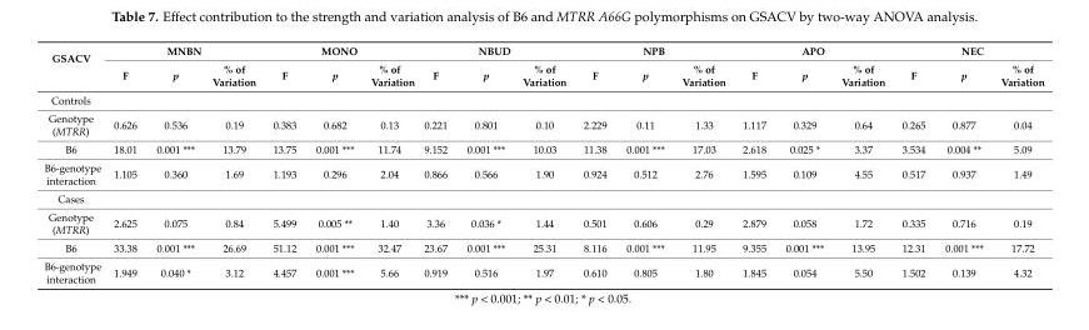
<table><thead><tr><td rowspan="2">GSACV</td><td colspan="3">MNBN</td><td colspan="3">MONO</td><td colspan="3">NBUD</td><td colspan="3">NPB</td><td colspan="3">APO</td><td colspan="3">NEC</td></tr><tr><td>F</td><td>p</td><td>% of Variation</td><td>F</td><td>p</td><td>% of Variation</td><td>F</td><td>p</td><td>% of Variation</td><td>F</td><td>p</td><td>% of Variation</td><td>F</td><td>p</td><td>% of Variation</td><td>F</td><td>p</td><td>% of Variation</td></tr></thead><tbody><tr><td colspan="19">Controls</td></tr><tr><td>Genotype (MTRR)</td><td>0.626</td><td>0.536</td><td>0.19</td><td>0.383</td><td>0.682</td><td>0.13</td><td>0.221</td><td>0.801</td><td>0.10</td><td>2.229</td><td>0.11</td><td>1.33</td><td>1.117</td><td>0.329</td><td>0.64</td><td>0.265</td><td>0.877</td><td>0.04</td></tr><tr><td>B6</td><td>18.01</td><td>0.001 ***</td><td>13.79</td><td>13.75</td><td>0.001 ***</td><td>11.74</td><td>9.152</td><td>0.001 ***</td><td>10.03</td><td>11.38</td><td>0.001 ***</td><td>17.03</td><td>2.618</td><td>0.025 *</td><td>3.37</td><td>3.534</td><td>0.004 **</td><td>5.09</td></tr><tr><td>B6-genotype interaction</td><td>1.105</td><td>0.360</td><td>1.69</td><td>1.193</td><td>0.296</td><td>2.04</td><td>0.866</td><td>0.566</td><td>1.90</td><td>0.924</td><td>0.512</td><td>2.76</td><td>1.595</td><td>0.109</td><td>4.55</td><td>0.517</td><td>0.937</td><td>1.49</td></tr><tr><td colspan="19">Cases</td></tr><tr><td>Genotype (MTRR)</td><td>2.625</td><td>0.075</td><td>0.84</td><td>5.499</td><td>0.005 **</td><td>1.40</td><td>3.36</td><td>0.036 *</td><td>1.44</td><td>0.501</td><td>0.606</td><td>0.29</td><td>2.879</td><td>0.058</td><td>1.72</td><td>0.335</td><td>0.716</td><td>0.19</td></tr><tr><td>B6</td><td>33.38</td><td>0.001 ***</td><td>26.69</td><td>51.12</td><td>0.001 ***</td><td>32.47</td><td>23.67</td><td>0.001 ***</td><td>25.31</td><td>8.116</td><td>0.001 ***</td><td>11.95</td><td>9.355</td><td>0.001 ***</td><td>13.95</td><td>12.31</td><td>0.001 ***</td><td>17.72</td></tr><tr><td>B6-genotype interaction</td><td>1.949</td><td>0.040 *</td><td>3.12</td><td>4.457</td><td>0.001 ***</td><td>5.66</td><td>0.919</td><td>0.516</td><td>1.97</td><td>0.610</td><td>0.805</td><td>1.80</td><td>1.845</td><td>0.054</td><td>5.50</td><td>1.502</td><td>0.139</td><td>4.32</td></tr></tbody></table>